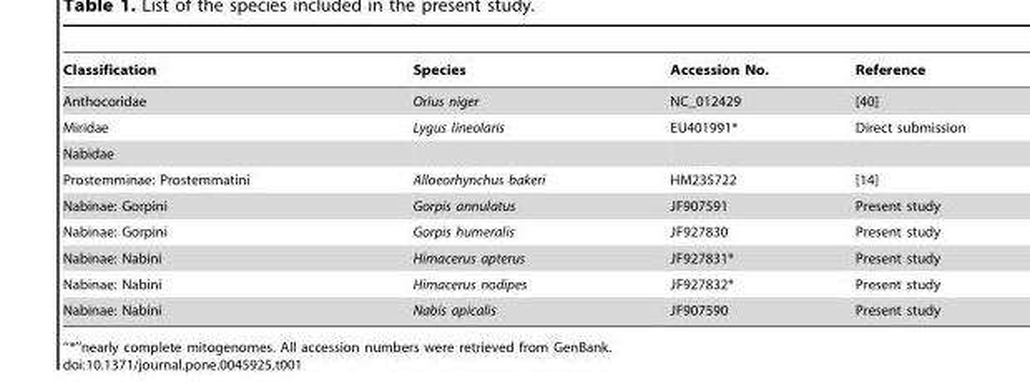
<table><thead><tr><td>Classification</td><td>Species</td><td>Accession No.</td><td>Reference</td></tr></thead><tbody><tr><td>Anthocoridae</td><td>Orius niger</td><td>NC_012429</td><td>[40]</td></tr><tr><td>Miridae</td><td>Lygus lineolaris</td><td>EU401991*</td><td>Direct submission</td></tr><tr><td colspan="4">Nabidae</td></tr><tr><td>Prostemminae: Prostemmatini</td><td>Alloeorhynchus bakeri</td><td>HM235722</td><td>[14]</td></tr><tr><td>Nabinae: Gorpini</td><td>Gorpis annulatus</td><td>JF907591</td><td>Present study</td></tr><tr><td>Nabinae: Gorpini</td><td>Gorpis humeralis</td><td>JF927830</td><td>Present study</td></tr><tr><td>Nabinae: Nabini</td><td>Himacerus apterus</td><td>JF927831*</td><td>Present study</td></tr><tr><td>Nabinae: Nabini</td><td>Himacerus nodipes</td><td>JF927832*</td><td>Present study</td></tr><tr><td>Nabinae: Nabini</td><td>Nabis apicalis</td><td>JF907590</td><td>Present study</td></tr></tbody></table>